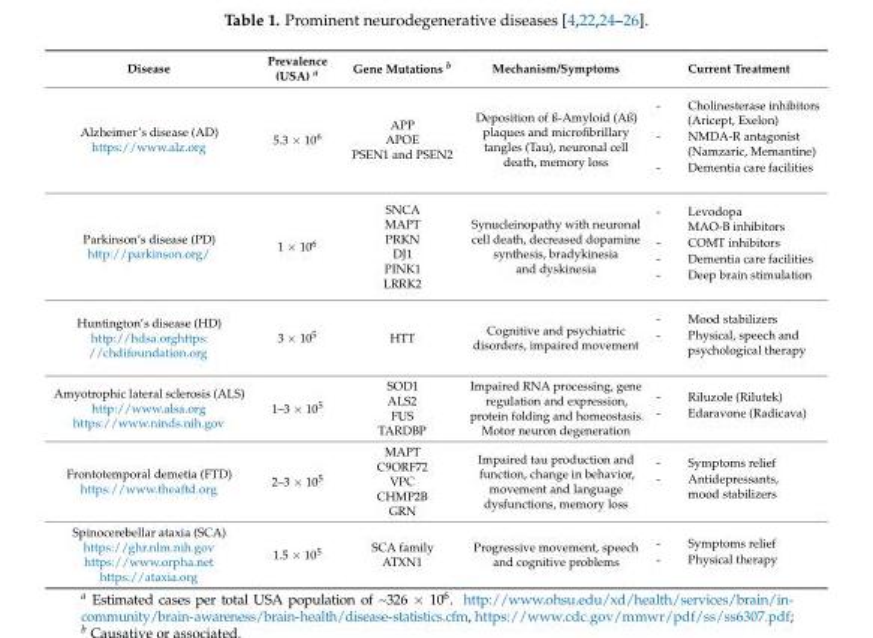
<table><thead><tr><td>Disease</td><td>Prevalence (USA) <sup>a</sup></td><td>Gene Mutations <sup>b</sup></td><td>Mechanism/Symptoms</td><td>Current Treatment</td></tr></thead><tbody><tr><td>Alzheimer’s disease (AD) https://www.alz.org</td><td>5.3 × 10<sup>6</sup></td><td>APP APOE PSEN1 and PSEN2</td><td>Deposition of ß-Amyloid (Aß) plaques and microfibrillary tangles (Tau), neuronal cell death, memory loss</td><td>- Cholinesterase inhibitors (Aricept, Exelon) - NMDA-R antagonist (Namzaric, Memantine) - Dementia care facilities</td></tr><tr><td>Parkinson’s disease (PD) http://parkinson.org/</td><td>1 × 10<sup>6</sup></td><td>SNCA MAPT PRKN DJ1 PINK1 LRRK2</td><td>Synucleinopathy with neuronal cell death, decreased dopamine synthesis, bradykinesia and dyskinesia</td><td>- Levodopa MAO-B inhibitors - COMT inhibitors - Dementia care facilities - Deep brain stimulation</td></tr><tr><td>Huntington’s disease (HD) http://hdsa.orghttps: //chdifoundation.org</td><td>3 × 10<sup>5</sup></td><td>HTT</td><td>Cognitive and psychiatric disorders, impaired movement</td><td>- Mood stabilizers - Physical, speech and psychological therapy</td></tr><tr><td>Amyotrophic lateral sclerosis (ALS) http://www.alsa.org https://www.ninds.nih.gov</td><td>1–3 × 10<sup>5</sup></td><td>SOD1 ALS2 FUS TARDBP</td><td>Impaired RNA processing, gene regulation and expression, protein folding and homeostasis. Motor neuron degeneration</td><td>- Riluzole (Rilutek) - Edaravone (Radicava)</td></tr><tr><td>Frontotemporal demetia (FTD) https://www.theaftd.org</td><td>2–3 × 10<sup>5</sup></td><td>MAPT C9ORF72 VPC CHMP2B GRN</td><td>Impaired tau production and function, change in behavior, movement and language dysfunctions, memory loss</td><td>- Symptoms relief - Antidepressants, mood stabilizers</td></tr><tr><td>Spinocerebellar ataxia (SCA) https://ghr.nlm.nih.gov https://www.orpha.net https://ataxia.org</td><td>1.5 × 10<sup>5</sup></td><td>SCA family ATXN1</td><td>Progressive movement, speech and cognitive problems</td><td>- Symptoms relief - Physical therapy</td></tr></tbody></table>